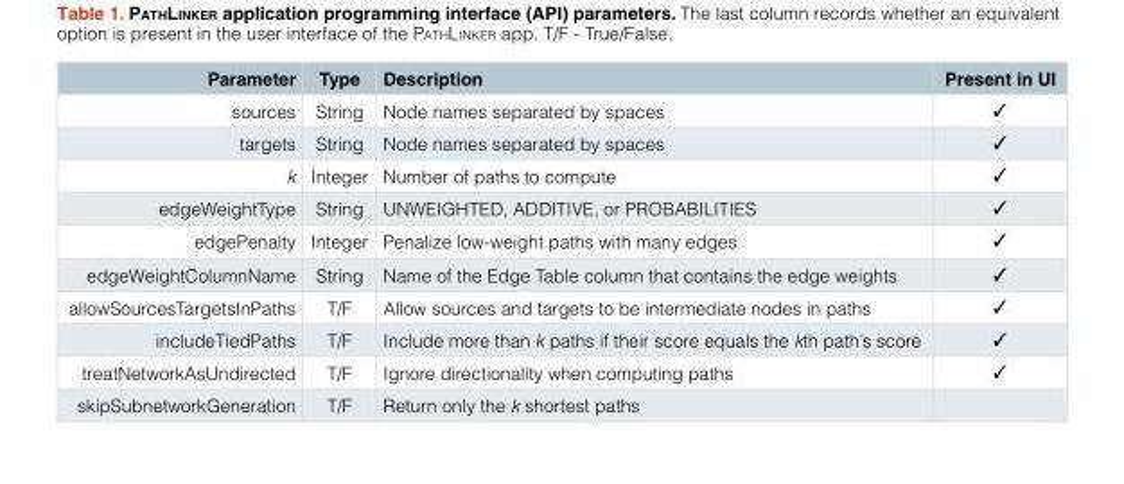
<table><thead><tr><td>Parameter</td><td>Type</td><td>Description</td><td>Present in UI</td></tr></thead><tbody><tr><td>sources</td><td>String</td><td>Node names separated by spaces</td><td>✓</td></tr><tr><td>targets</td><td>String</td><td>Node names separated by spaces</td><td>✓</td></tr><tr><td>k</td><td>Integer</td><td>Number of paths to compute</td><td>✓</td></tr><tr><td>edgeWeightType</td><td>String</td><td>UNWEIGHTED, ADDITIVE, or PROBABILITIES</td><td>✓</td></tr><tr><td>edgePenalty</td><td>Integer</td><td>Penalize low-weight paths with many edges</td><td>✓</td></tr><tr><td>edgeWeightColumnName</td><td>String</td><td>Name of the Edge Table column that contains the edge weights</td><td>✓</td></tr><tr><td>allowSourcesTargetsInPaths</td><td>T/F</td><td>Allow sources and targets to be intermediate nodes in paths</td><td>✓</td></tr><tr><td>includeTiedPaths</td><td>T/F</td><td>Include more than k paths if their score equals the kth path’s score</td><td>✓</td></tr><tr><td>treatNetworkAsUndirected</td><td>T/F</td><td>Ignore directionality when computing paths</td><td>✓</td></tr><tr><td>skipSubnetworkGeneration</td><td>T/F</td><td>Return only the k shortest paths</td><td></td></tr></tbody></table>